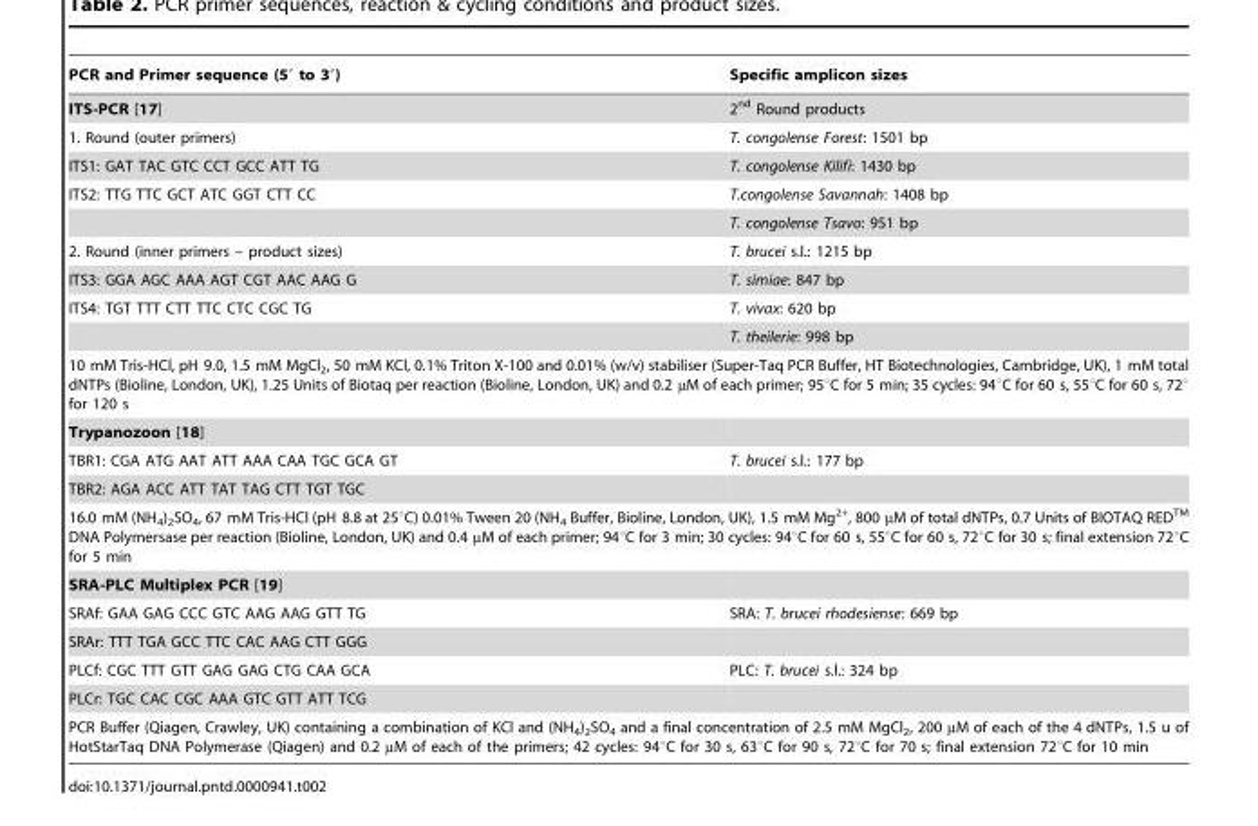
<table><thead><tr><td>PCR and Primer sequence (5′ to 3′)</td><td>Specific amplicon sizes</td></tr></thead><tbody><tr><td>ITS-PCR [17]</td><td>2<sup>nd</sup> Round products</td></tr><tr><td>1. Round (outer primers)</td><td>T. congolense Forest: 1501 bp</td></tr><tr><td>ITS1: GAT TAC GTC CCT GCC ATT TG</td><td>T. congolense Kilifi: 1430 bp</td></tr><tr><td rowspan="2">ITS2: TTG TTC GCT ATC GGT CTT CC</td><td>T.congolense Savannah: 1408 bp</td></tr><tr><td>T. congolense Tsavo: 951 bp</td></tr><tr><td>2. Round (inner primers – product sizes)</td><td>T. brucei s.l.: 1215 bp</td></tr><tr><td>ITS3: GGA AGC AAA AGT CGT AAC AAG G</td><td>T. simiae: 847 bp</td></tr><tr><td rowspan="2">ITS4: TGT TTT CTT TTC CTC CGC TG</td><td>T. vivax: 620 bp</td></tr><tr><td>T. theilerie: 998 bp</td></tr><tr><td colspan="2">10 mM Tris-HCl, pH 9.0, 1.5 mM MgCl<sub>2</sub>, 50 mM KCl, 0.1% Triton X-100 and 0.01% (w/v) stabiliser (Super-Taq PCR Buffer, HT Biotechnologies, Cambridge, UK), 1 mM total dNTPs (Bioline, London, UK), 1.25 Units of Biotaq per reaction (Bioline, London, UK) and 0.2 µM of each primer; 95°C for 5 min; 35 cycles: 94°C for 60 s, 55°C for 60 s, 72° for 120 s</td></tr><tr><td colspan="2">Trypanozoon [18]</td></tr><tr><td>TBR1: CGA ATG AAT ATT AAA CAA TGC GCA GT</td><td>T. brucei s.l.: 177 bp</td></tr><tr><td colspan="2">TBR2: AGA ACC ATT TAT TAG CTT TGT TGC</td></tr><tr><td colspan="2">16.0 mM (NH<sub>4</sub>)<sub>2</sub>SO<sub>4</sub>, 67 mM Tris-HCl (pH 8.8 at 25°C) 0.01% Tween 20 (NH<sub>4</sub> Buffer, Bioline, London, UK), 1.5 mM Mg<sup>2+</sup>, 800 µM of total dNTPs, 0.7 Units of BIOTAQ RED<sup>TM</sup> DNA Polymersase per reaction (Bioline, London, UK) and 0.4 µM of each primer; 94°C for 3 min; 30 cycles: 94°C for 60 s, 55°C for 60 s, 72°C for 30 s; final extension 72°C for 5 min</td></tr><tr><td colspan="2">SRA-PLC Multiplex PCR [19]</td></tr><tr><td>SRAf: GAA GAG CCC GTC AAG AAG GTT TG</td><td>SRA: T. brucei rhodesiense: 669 bp</td></tr><tr><td colspan="2">SRAr: TTT TGA GCC TTC CAC AAG CTT GGG</td></tr><tr><td>PLCf: CGC TTT GTT GAG GAG CTG CAA GCA</td><td>PLC: T. brucei s.l.: 324 bp</td></tr><tr><td colspan="2">PLCr: TGC CAC CGC AAA GTC GTT ATT TCG</td></tr><tr><td colspan="2">PCR Buffer (Qiagen, Crawley, UK) containing a combination of KCl and (NH<sub>4</sub>)<sub>2</sub>SO<sub>4</sub> and a final concentration of 2.5 mM MgCl<sub>2</sub>, 200 µM of each of the 4 dNTPs, 1.5 u of HotStarTaq DNA Polymerase (Qiagen) and 0.2 µM of each of the primers; 42 cycles: 94°C for 30 s, 63°C for 90 s, 72°C for 70 s; final extension 72°C for 10 min</td></tr></tbody></table>